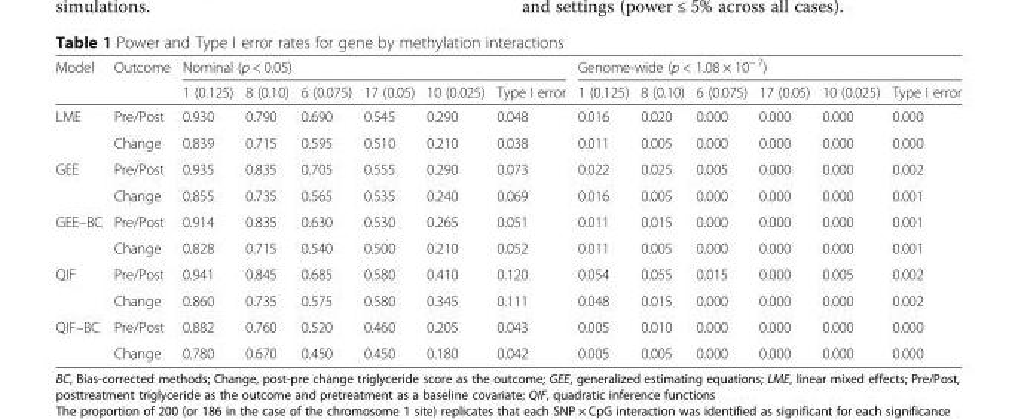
<table><thead><tr><td rowspan="2">Model</td><td rowspan="2">Outcome</td><td colspan="6">Nominal (p &lt; 0.05)</td><td colspan="6">Genome-wide (p &lt; 1.08 × 10<sup>− 7</sup>)</td></tr><tr><td>1 (0.125)</td><td>8 (0.10)</td><td>6 (0.075)</td><td>17 (0.05)</td><td>10 (0.025)</td><td>Type I error</td><td>1 (0.125)</td><td>8 (0.10)</td><td>6 (0.075)</td><td>17 (0.05)</td><td>10 (0.025)</td><td>Type I error</td></tr></thead><tbody><tr><td rowspan="2">LME</td><td>Pre/Post</td><td>0.930</td><td>0.790</td><td>0.690</td><td>0.545</td><td>0.290</td><td>0.048</td><td>0.016</td><td>0.020</td><td>0.000</td><td>0.000</td><td>0.000</td><td>0.000</td></tr><tr><td>Change</td><td>0.839</td><td>0.715</td><td>0.595</td><td>0.510</td><td>0.210</td><td>0.038</td><td>0.011</td><td>0.005</td><td>0.000</td><td>0.000</td><td>0.000</td><td>0.000</td></tr><tr><td rowspan="2">GEE</td><td>Pre/Post</td><td>0.935</td><td>0.835</td><td>0.705</td><td>0.555</td><td>0.290</td><td>0.073</td><td>0.022</td><td>0.025</td><td>0.005</td><td>0.000</td><td>0.000</td><td>0.002</td></tr><tr><td>Change</td><td>0.855</td><td>0.735</td><td>0.565</td><td>0.535</td><td>0.240</td><td>0.069</td><td>0.016</td><td>0.005</td><td>0.000</td><td>0.000</td><td>0.000</td><td>0.001</td></tr><tr><td rowspan="2">GEE–BC</td><td>Pre/Post</td><td>0.914</td><td>0.835</td><td>0.630</td><td>0.530</td><td>0.265</td><td>0.051</td><td>0.011</td><td>0.015</td><td>0.000</td><td>0.000</td><td>0.000</td><td>0.001</td></tr><tr><td>Change</td><td>0.828</td><td>0.715</td><td>0.540</td><td>0.500</td><td>0.210</td><td>0.052</td><td>0.011</td><td>0.005</td><td>0.000</td><td>0.000</td><td>0.000</td><td>0.001</td></tr><tr><td rowspan="2">QIF</td><td>Pre/Post</td><td>0.941</td><td>0.845</td><td>0.685</td><td>0.580</td><td>0.410</td><td>0.120</td><td>0.054</td><td>0.055</td><td>0.015</td><td>0.000</td><td>0.005</td><td>0.002</td></tr><tr><td>Change</td><td>0.860</td><td>0.735</td><td>0.575</td><td>0.580</td><td>0.345</td><td>0.111</td><td>0.048</td><td>0.015</td><td>0.000</td><td>0.000</td><td>0.000</td><td>0.002</td></tr><tr><td rowspan="2">QIF–BC</td><td>Pre/Post</td><td>0.882</td><td>0.760</td><td>0.520</td><td>0.460</td><td>0.205</td><td>0.043</td><td>0.005</td><td>0.010</td><td>0.000</td><td>0.000</td><td>0.000</td><td>0.000</td></tr><tr><td>Change</td><td>0.780</td><td>0.670</td><td>0.450</td><td>0.450</td><td>0.180</td><td>0.042</td><td>0.005</td><td>0.005</td><td>0.000</td><td>0.000</td><td>0.000</td><td>0.000</td></tr></tbody></table>